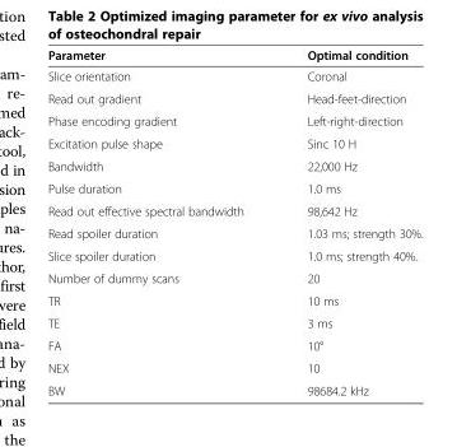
<table><thead><tr><td>Parameter</td><td>Optimal condition</td></tr></thead><tbody><tr><td>Slice orientation</td><td>Coronal</td></tr><tr><td>Read out gradient</td><td>Head-feet-direction</td></tr><tr><td>Phase encoding gradient</td><td>Left-right-direction</td></tr><tr><td>Excitation pulse shape</td><td>Sinc 10 H</td></tr><tr><td>Bandwidth</td><td>22,000 Hz</td></tr><tr><td>Pulse duration</td><td>1.0 ms</td></tr><tr><td>Read out effective spectral bandwidth</td><td>98,642 Hz</td></tr><tr><td>Read spoiler duration</td><td>1.03 ms; strength 30%.</td></tr><tr><td>Slice spoiler duration</td><td>1.0 ms; strength 40%.</td></tr><tr><td>Number of dummy scans</td><td>20</td></tr><tr><td>TR</td><td>10 ms</td></tr><tr><td>TE</td><td>3 ms</td></tr><tr><td>FA</td><td>10°</td></tr><tr><td>NEX</td><td>10</td></tr><tr><td>BW</td><td>98684.2 kHz</td></tr></tbody></table>